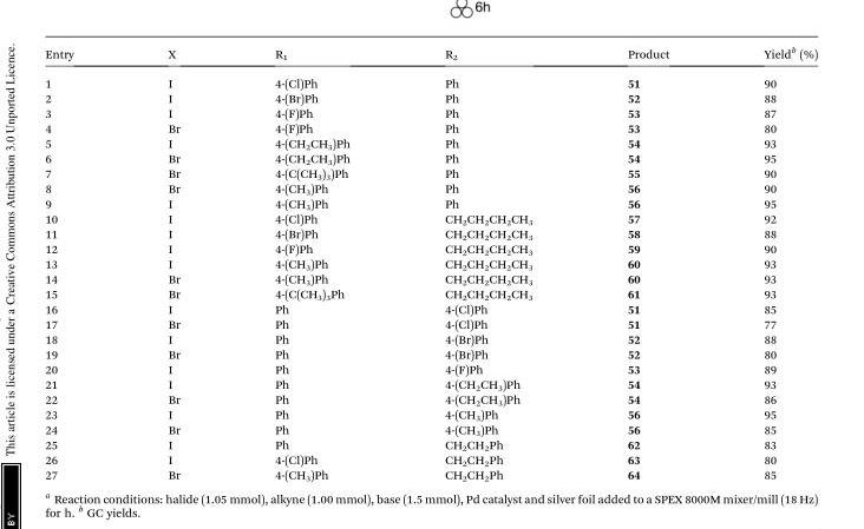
<table><thead><tr><td>Entry</td><td>X</td><td>R<sub>1</sub></td><td>R<sub>2</sub></td><td>Product</td><td>Yield<sup>b</sup> (%)</td></tr></thead><tbody><tr><td>1</td><td>I</td><td>4-(Cl)Ph</td><td>Ph</td><td>51</td><td>90</td></tr><tr><td>2</td><td>I</td><td>4-(Br)Ph</td><td>Ph</td><td>52</td><td>88</td></tr><tr><td>3</td><td>I</td><td>4-(F)Ph</td><td>Ph</td><td>53</td><td>87</td></tr><tr><td>4</td><td>Br</td><td>4-(F)Ph</td><td>Ph</td><td>53</td><td>80</td></tr><tr><td>5</td><td>I</td><td>4-(CH<sub>2</sub>CH<sub>3</sub>)Ph</td><td>Ph</td><td>54</td><td>93</td></tr><tr><td>6</td><td>Br</td><td>4-(CH<sub>2</sub>CH<sub>3</sub>)Ph</td><td>Ph</td><td>54</td><td>95</td></tr><tr><td>7</td><td>Br</td><td>4-(C(CH<sub>3</sub>)<sub>3</sub>)Ph</td><td>Ph</td><td>55</td><td>90</td></tr><tr><td>8</td><td>Br</td><td>4-(CH<sub>3</sub>)Ph</td><td>Ph</td><td>56</td><td>90</td></tr><tr><td>9</td><td>I</td><td>4-(CH<sub>3</sub>)Ph</td><td>Ph</td><td>56</td><td>95</td></tr><tr><td>10</td><td>I</td><td>4-(Cl)Ph</td><td>CH<sub>2</sub>CH<sub>2</sub>CH<sub>2</sub>CH<sub>3</sub></td><td>57</td><td>92</td></tr><tr><td>11</td><td>I</td><td>4-(Br)Ph</td><td>CH<sub>2</sub>CH<sub>2</sub>CH<sub>2</sub>CH<sub>3</sub></td><td>58</td><td>88</td></tr><tr><td>12</td><td>I</td><td>4-(F)Ph</td><td>CH<sub>2</sub>CH<sub>2</sub>CH<sub>2</sub>CH<sub>3</sub></td><td>59</td><td>90</td></tr><tr><td>13</td><td>I</td><td>4-(CH<sub>3</sub>)Ph</td><td>CH<sub>2</sub>CH<sub>2</sub>CH<sub>2</sub>CH<sub>3</sub></td><td>60</td><td>93</td></tr><tr><td>14</td><td>Br</td><td>4-(CH<sub>3</sub>)Ph</td><td>CH<sub>2</sub>CH<sub>2</sub>CH<sub>2</sub>CH<sub>3</sub></td><td>60</td><td>93</td></tr><tr><td>15</td><td>Br</td><td>4-(C(CH<sub>3</sub>)<sub>3</sub>Ph</td><td>CH<sub>2</sub>CH<sub>2</sub>CH<sub>2</sub>CH<sub>3</sub></td><td>61</td><td>93</td></tr><tr><td>16</td><td>I</td><td>Ph</td><td>4-(Cl)Ph</td><td>51</td><td>85</td></tr><tr><td>17</td><td>Br</td><td>Ph</td><td>4-(Cl)Ph</td><td>51</td><td>77</td></tr><tr><td>18</td><td>I</td><td>Ph</td><td>4-(Br)Ph</td><td>52</td><td>88</td></tr><tr><td>19</td><td>Br</td><td>Ph</td><td>4-(Br)Ph</td><td>52</td><td>80</td></tr><tr><td>20</td><td>I</td><td>Ph</td><td>4-(F)Ph</td><td>53</td><td>89</td></tr><tr><td>21</td><td>I</td><td>Ph</td><td>4-(CH<sub>2</sub>CH<sub>3</sub>)Ph</td><td>54</td><td>93</td></tr><tr><td>22</td><td>Br</td><td>Ph</td><td>4-(CH<sub>2</sub>CH<sub>3</sub>)Ph</td><td>54</td><td>86</td></tr><tr><td>23</td><td>I</td><td>Ph</td><td>4-(CH<sub>3</sub>)Ph</td><td>56</td><td>95</td></tr><tr><td>24</td><td>Br</td><td>Ph</td><td>4-(CH<sub>3</sub>)Ph</td><td>56</td><td>85</td></tr><tr><td>25</td><td>I</td><td>Ph</td><td>CH<sub>2</sub>CH<sub>2</sub>Ph</td><td>62</td><td>83</td></tr><tr><td>26</td><td>I</td><td>4-(Cl)Ph</td><td>CH<sub>2</sub>CH<sub>2</sub>Ph</td><td>63</td><td>80</td></tr><tr><td>27</td><td>Br</td><td>4-(CH<sub>3</sub>)Ph</td><td>CH<sub>2</sub>CH<sub>2</sub>Ph</td><td>64</td><td>85</td></tr></tbody></table>